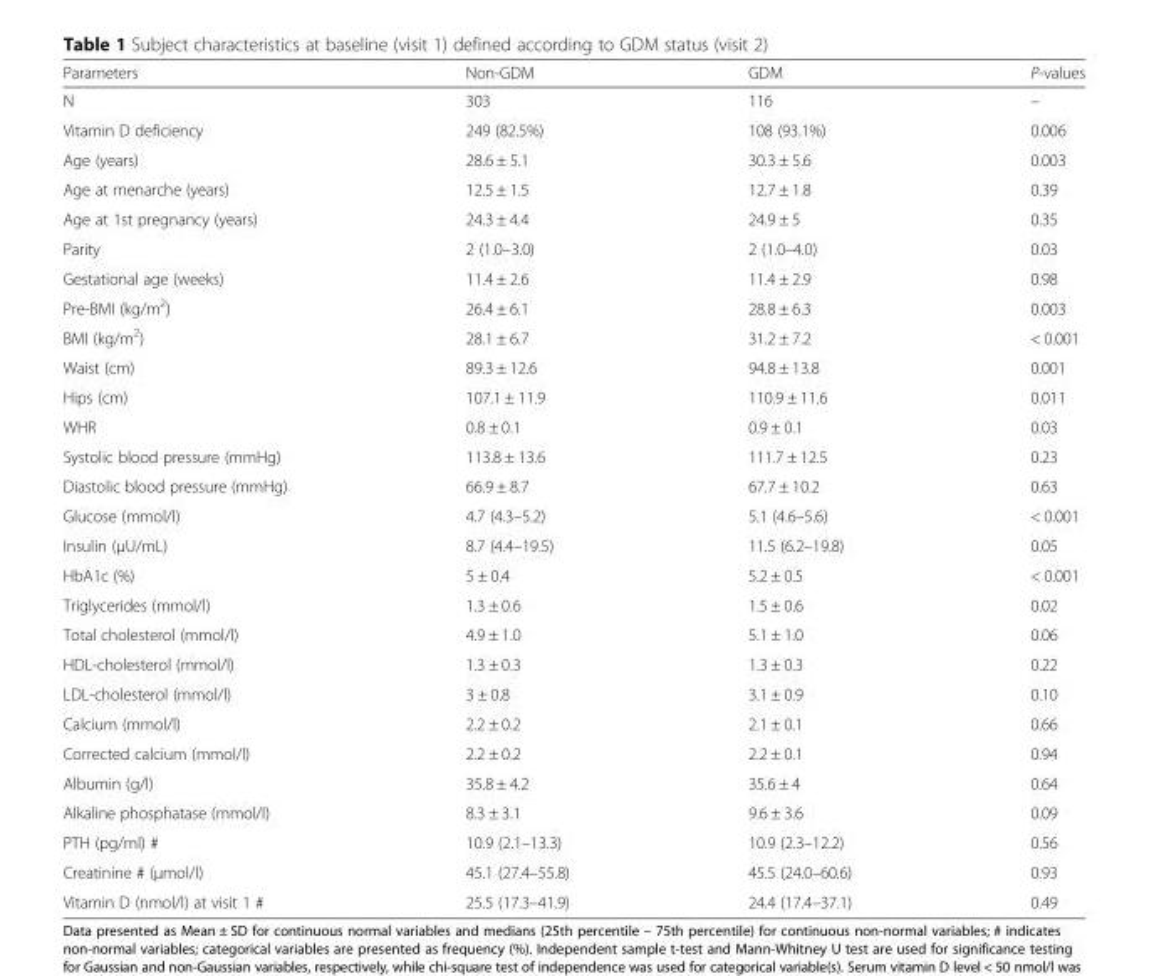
<table><thead><tr><td>Parameters</td><td>Non-GDM</td><td>GDM</td><td>P-values</td></tr></thead><tbody><tr><td>N</td><td>303</td><td>116</td><td>–</td></tr><tr><td>Vitamin D deficiency</td><td>249 (82.5%)</td><td>108 (93.1%)</td><td>0.006</td></tr><tr><td>Age (years)</td><td>28.6 ± 5.1</td><td>30.3 ± 5.6</td><td>0.003</td></tr><tr><td>Age at menarche (years)</td><td>12.5 ± 1.5</td><td>12.7 ± 1.8</td><td>0.39</td></tr><tr><td>Age at 1st pregnancy (years)</td><td>24.3 ± 4.4</td><td>24.9 ± 5</td><td>0.35</td></tr><tr><td>Parity</td><td>2 (1.0–3.0)</td><td>2 (1.0–4.0)</td><td>0.03</td></tr><tr><td>Gestational age (weeks)</td><td>11.4 ± 2.6</td><td>11.4 ± 2.9</td><td>0.98</td></tr><tr><td>Pre-BMI (kg/m<sup>2</sup>)</td><td>26.4 ± 6.1</td><td>28.8 ± 6.3</td><td>0.003</td></tr><tr><td>BMI (kg/m<sup>2</sup>)</td><td>28.1 ± 6.7</td><td>31.2 ± 7.2</td><td>&lt; 0.001</td></tr><tr><td>Waist (cm)</td><td>89.3 ± 12.6</td><td>94.8 ± 13.8</td><td>0.001</td></tr><tr><td>Hips (cm)</td><td>107.1 ± 11.9</td><td>110.9 ± 11.6</td><td>0.011</td></tr><tr><td>WHR</td><td>0.8 ± 0.1</td><td>0.9 ± 0.1</td><td>0.03</td></tr><tr><td>Systolic blood pressure (mmHg)</td><td>113.8 ± 13.6</td><td>111.7 ± 12.5</td><td>0.23</td></tr><tr><td>Diastolic blood pressure (mmHg)</td><td>66.9 ± 8.7</td><td>67.7 ± 10.2</td><td>0.63</td></tr><tr><td>Glucose (mmol/l)</td><td>4.7 (4.3–5.2)</td><td>5.1 (4.6–5.6)</td><td>&lt; 0.001</td></tr><tr><td>Insulin (μU/mL)</td><td>8.7 (4.4–19.5)</td><td>11.5 (6.2–19.8)</td><td>0.05</td></tr><tr><td>HbA1c (%)</td><td>5 ± 0.4</td><td>5.2 ± 0.5</td><td>&lt; 0.001</td></tr><tr><td>Triglycerides (mmol/l)</td><td>1.3 ± 0.6</td><td>1.5 ± 0.6</td><td>0.02</td></tr><tr><td>Total cholesterol (mmol/l)</td><td>4.9 ± 1.0</td><td>5.1 ± 1.0</td><td>0.06</td></tr><tr><td>HDL-cholesterol (mmol/l)</td><td>1.3 ± 0.3</td><td>1.3 ± 0.3</td><td>0.22</td></tr><tr><td>LDL-cholesterol (mmol/l)</td><td>3 ± 0.8</td><td>3.1 ± 0.9</td><td>0.10</td></tr><tr><td>Calcium (mmol/l)</td><td>2.2 ± 0.2</td><td>2.1 ± 0.1</td><td>0.66</td></tr><tr><td>Corrected calcium (mmol/l)</td><td>2.2 ± 0.2</td><td>2.2 ± 0.1</td><td>0.94</td></tr><tr><td>Albumin (g/l)</td><td>35.8 ± 4.2</td><td>35.6 ± 4</td><td>0.64</td></tr><tr><td>Alkaline phosphatase (mmol/l)</td><td>8.3 ± 3.1</td><td>9.6 ± 3.6</td><td>0.09</td></tr><tr><td>PTH (pg/ml) #</td><td>10.9 (2.1–13.3)</td><td>10.9 (2.3–12.2)</td><td>0.56</td></tr><tr><td>Creatinine # (μmol/l)</td><td>45.1 (27.4–55.8)</td><td>45.5 (24.0–60.6)</td><td>0.93</td></tr><tr><td>Vitamin D (nmol/l) at visit 1 #</td><td>25.5 (17.3–41.9)</td><td>24.4 (17.4–37.1)</td><td>0.49</td></tr></tbody></table>